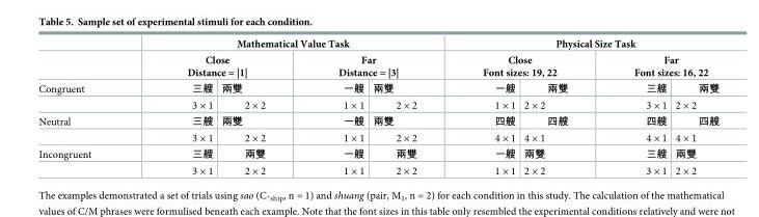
<table><thead><tr><td rowspan="3">Congruent</td><td colspan="4">Mathematical Value Task</td><td colspan="4">Physical Size Task</td></tr><tr><td colspan="2">Close Distance = |1|</td><td colspan="2">Far Distance = |3|</td><td colspan="2">Close Font sizes: 19, 22</td><td colspan="2">Far Font sizes: 16, 22</td></tr><tr><td>三艘</td><td>兩雙</td><td>一艘</td><td>兩雙</td><td>一艘</td><td>兩雙</td><td>三艘</td><td>兩雙</td></tr></thead><tbody><tr><td></td><td>3 × 1</td><td>2 × 2</td><td>1 × 1</td><td>2 × 2</td><td>1 × 1</td><td>2 × 2</td><td>3 × 1</td><td>2 × 2</td></tr><tr><td rowspan="2">Neutral</td><td>三艘</td><td>兩雙</td><td>一艘</td><td>兩雙</td><td>四艘</td><td>四艘</td><td>四艘</td><td>四艘</td></tr><tr><td>3 × 1</td><td>2 × 2</td><td>1 × 1</td><td>2 × 2</td><td>4 × 1</td><td>4 × 1</td><td>4 × 1</td><td>4 × 1</td></tr><tr><td rowspan="2">Incongruent</td><td>三艘</td><td>兩雙</td><td>一艘</td><td>兩雙</td><td>一艘</td><td>兩雙</td><td>三艘</td><td>兩雙</td></tr><tr><td>3 × 1</td><td>2 × 2</td><td>1 × 1</td><td>2 × 2</td><td>1 × 1</td><td>2 × 2</td><td>3 × 1</td><td>2 × 2</td></tr></tbody></table>